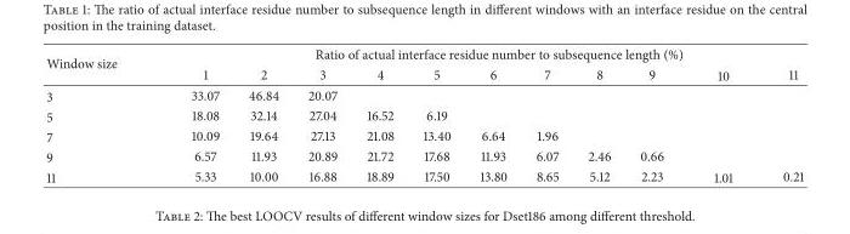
<table><thead><tr><td rowspan="2">Window size</td><td colspan="11">Ratio of actual interface residue number to subsequence length (%)</td></tr><tr><td>1</td><td>2</td><td>3</td><td>4</td><td>5</td><td>6</td><td>7</td><td>8</td><td>9</td><td>10</td><td>11</td></tr></thead><tbody><tr><td>3</td><td>33.07</td><td>46.84</td><td>20.07</td><td></td><td></td><td></td><td></td><td></td><td></td><td></td><td></td></tr><tr><td>5</td><td>18.08</td><td>32.14</td><td>27.04</td><td>16.52</td><td>6.19</td><td></td><td></td><td></td><td></td><td></td><td></td></tr><tr><td>7</td><td>10.09</td><td>19.64</td><td>27.13</td><td>21.08</td><td>13.40</td><td>6.64</td><td>1.96</td><td></td><td></td><td></td><td></td></tr><tr><td>9</td><td>6.57</td><td>11.93</td><td>20.89</td><td>21.72</td><td>17.68</td><td>11.93</td><td>6.07</td><td>2.46</td><td>0.66</td><td></td><td></td></tr><tr><td>11</td><td>5.33</td><td>10.00</td><td>16.88</td><td>18.89</td><td>17.50</td><td>13.80</td><td>8.65</td><td>5.12</td><td>2.23</td><td>1.01</td><td>0.21</td></tr></tbody></table>